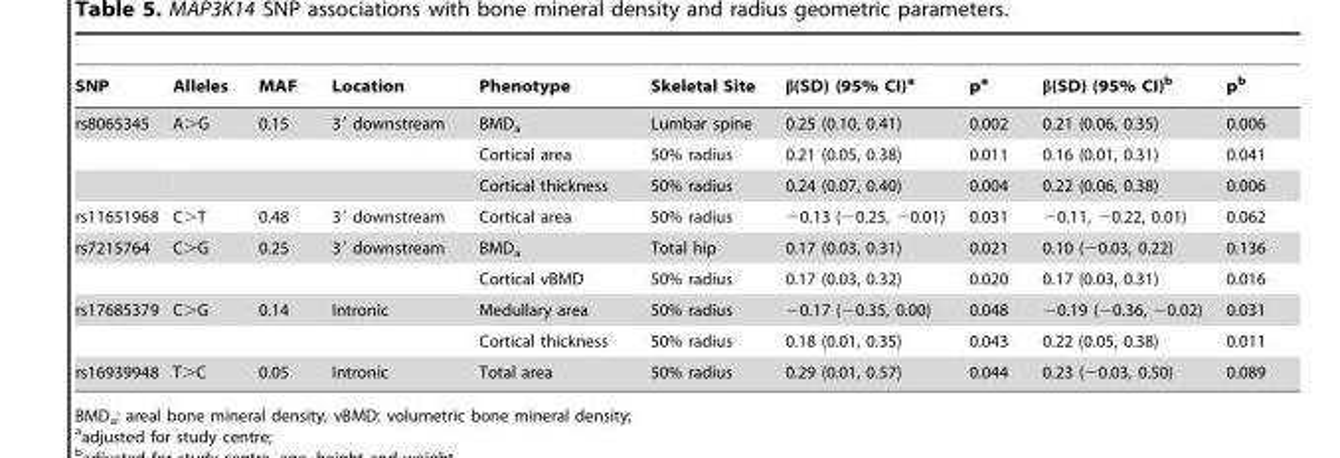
<table><thead><tr><td>SNP</td><td>Alleles</td><td>MAF</td><td>Location</td><td>Phenotype</td><td>Skeletal Site</td><td>β(SD) (95% CI)<sup>a</sup></td><td>p<sup>a</sup></td><td>β(SD) (95% CI)<sup>b</sup></td><td>p<sup>b</sup></td></tr></thead><tbody><tr><td rowspan="3">rs8065345</td><td>A&gt;G</td><td>0.15</td><td>3′ downstream</td><td>BMD<sub>a</sub></td><td>Lumbar spine</td><td>0.25 (0.10, 0.41)</td><td>0.002</td><td>0.21 (0.06, 0.35)</td><td>0.006</td></tr><tr><td></td><td></td><td></td><td>Cortical area</td><td>50% radius</td><td>0.21 (0.05, 0.38)</td><td>0.011</td><td>0.16 (0.01, 0.31)</td><td>0.041</td></tr><tr><td></td><td></td><td></td><td>Cortical thickness</td><td>50% radius</td><td>0.24 (0.07, 0.40)</td><td>0.004</td><td>0.22 (0.06, 0.38)</td><td>0.006</td></tr><tr><td>rs11651968</td><td>C&gt;T</td><td>0.48</td><td>3′ downstream</td><td>Cortical area</td><td>50% radius</td><td>−0.13 (−0.25, −0.01)</td><td>0.031</td><td>−0.11, −0.22, 0.01)</td><td>0.062</td></tr><tr><td rowspan="2">rs7215764</td><td>C&gt;G</td><td>0.25</td><td>3′ downstream</td><td>BMD<sub>a</sub></td><td>Total hip</td><td>0.17 (0.03, 0.31)</td><td>0.021</td><td>0.10 (−0.03, 0.22)</td><td>0.136</td></tr><tr><td></td><td></td><td></td><td>Cortical vBMD</td><td>50% radius</td><td>0.17 (0.03, 0.32)</td><td>0.020</td><td>0.17 (0.03, 0.31)</td><td>0.016</td></tr><tr><td rowspan="2">rs17685379</td><td>C&gt;G</td><td>0.14</td><td>Intronic</td><td>Medullary area</td><td>50% radius</td><td>−0.17 (−0.35, 0.00)</td><td>0.048</td><td>−0.19 (−0.36, −0.02)</td><td>0.031</td></tr><tr><td></td><td></td><td></td><td>Cortical thickness</td><td>50% radius</td><td>0.18 (0.01, 0.35)</td><td>0.043</td><td>0.22 (0.05, 0.38)</td><td>0.011</td></tr><tr><td>rs16939948</td><td>T&gt;C</td><td>0.05</td><td>Intronic</td><td>Total area</td><td>50% radius</td><td>0.29 (0.01, 0.57)</td><td>0.044</td><td>0.23 (−0.03, 0.50)</td><td>0.089</td></tr></tbody></table>